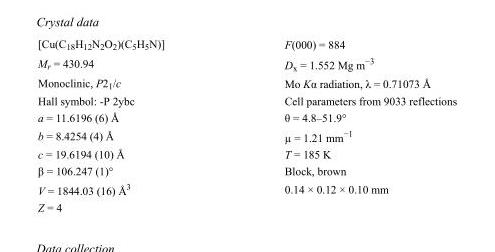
<table><tbody><tr><td>[Cu(C<sub>18</sub>H<sub>12</sub>N<sub>2</sub>O<sub>2</sub>)(C<sub>5</sub>H<sub>5</sub>N)]</td><td>F(000) = 884</td></tr><tr><td>M<sub>r</sub> = 430.94</td><td>D<sub>x</sub> = 1.552 Mg m<sup>−3</sup></td></tr><tr><td>Monoclinic, P2<sub>1</sub>/c</td><td>Mo Kα radiation, λ = 0.71073 Å</td></tr><tr><td>Hall symbol: -P 2ybc</td><td>Cell parameters from 9033 reflections</td></tr><tr><td>a = 11.6196 (6) Å</td><td>θ = 4.8–51.9°</td></tr><tr><td>b = 8.4254 (4) Å</td><td>µ = 1.21 mm<sup>−1</sup></td></tr><tr><td>c = 19.6194 (10) Å</td><td>T = 185 K</td></tr><tr><td>β = 106.247 (1)°</td><td>Block, brown</td></tr><tr><td>V = 1844.03 (16) Å<sup>3</sup></td><td>0.14 × 0.12 × 0.10 mm</td></tr><tr><td>Z = 4</td><td></td></tr></tbody></table>